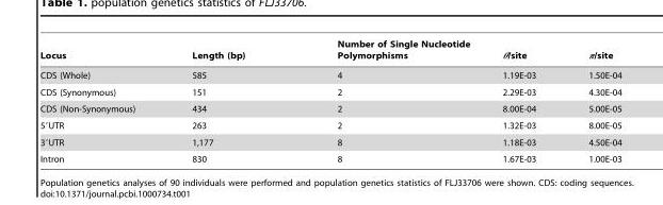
<table><thead><tr><td>Locus</td><td>Length (bp)</td><td>Number of Single Nucleotide Polymorphisms</td><td>θ/site</td><td>π/site</td></tr></thead><tbody><tr><td>CDS (Whole)</td><td>585</td><td>4</td><td>1.19E-03</td><td>1.50E-04</td></tr><tr><td>CDS (Synonymous)</td><td>151</td><td>2</td><td>2.29E-03</td><td>4.30E-04</td></tr><tr><td>CDS (Non-Synonymous)</td><td>434</td><td>2</td><td>8.00E-04</td><td>5.00E-05</td></tr><tr><td>5′UTR</td><td>263</td><td>2</td><td>1.32E-03</td><td>8.00E-05</td></tr><tr><td>3′UTR</td><td>1,177</td><td>8</td><td>1.18E-03</td><td>4.50E-04</td></tr><tr><td>Intron</td><td>830</td><td>8</td><td>1.67E-03</td><td>1.00E-03</td></tr></tbody></table>